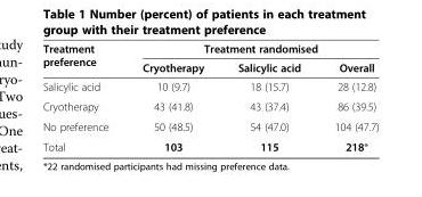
<table><thead><tr><td rowspan="2">Treatment preference</td><td colspan="3">Treatment randomised</td></tr><tr><td>Cryotherapy</td><td>Salicylic acid</td><td>Overall</td></tr></thead><tbody><tr><td>Salicylic acid</td><td>10 (9.7)</td><td>18 (15.7)</td><td>28 (12.8)</td></tr><tr><td>Cryotherapy</td><td>43 (41.8)</td><td>43 (37.4)</td><td>86 (39.5)</td></tr><tr><td>No preference</td><td>50 (48.5)</td><td>54 (47.0)</td><td>104 (47.7)</td></tr><tr><td>Total</td><td>103</td><td>115</td><td>218*</td></tr></tbody></table>